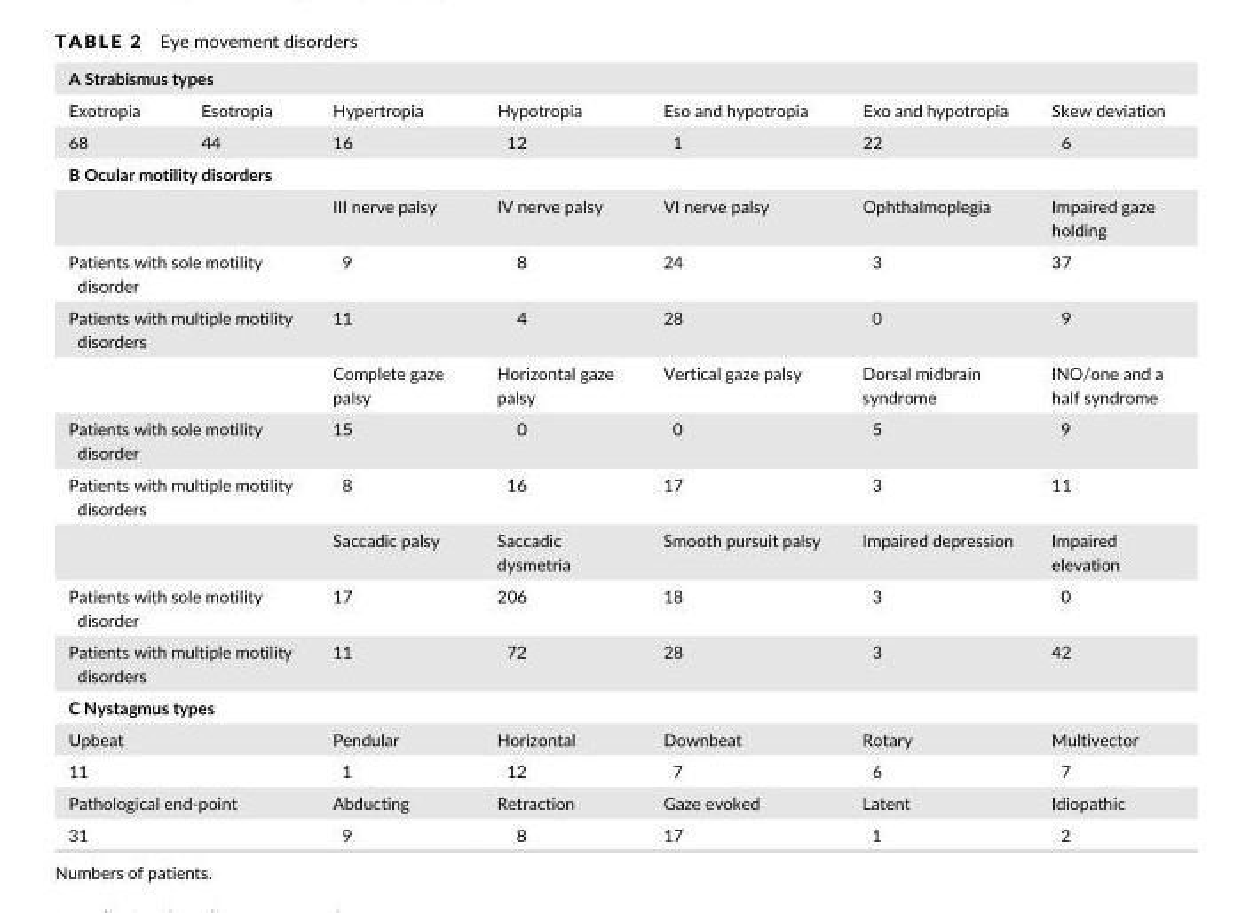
<table><tbody><tr><td colspan="7">A Strabismus types</td></tr><tr><td>Exotropia</td><td>Esotropia</td><td>Hypertropia</td><td>Hypotropia</td><td>Eso and hypotropia</td><td>Exo and hypotropia</td><td>Skew deviation</td></tr><tr><td>68</td><td>44</td><td>16</td><td>12</td><td>1</td><td>22</td><td>6</td></tr><tr><td colspan="7">B Ocular motility disorders</td></tr><tr><td colspan="2"></td><td>III nerve palsy</td><td>IV nerve palsy</td><td>VI nerve palsy</td><td>Ophthalmoplegia</td><td>Impaired gaze holding</td></tr><tr><td colspan="2">Patients with sole motility disorder</td><td>9</td><td>8</td><td>24</td><td>3</td><td>37</td></tr><tr><td rowspan="2" colspan="2">Patients with multiple motility disorders</td><td>11</td><td>4</td><td>28</td><td>0</td><td>9</td></tr><tr><td>Complete gaze palsy</td><td>Horizontal gaze palsy</td><td>Vertical gaze palsy</td><td>Dorsal midbrain syndrome</td><td>INO/one and a half syndrome</td></tr><tr><td colspan="2">Patients with sole motility disorder</td><td>15</td><td>0</td><td>0</td><td>5</td><td>9</td></tr><tr><td rowspan="2" colspan="2">Patients with multiple motility disorders</td><td>8</td><td>16</td><td>17</td><td>3</td><td>11</td></tr><tr><td>Saccadic palsy</td><td>Saccadic dysmetria</td><td>Smooth pursuit palsy</td><td>Impaired depression</td><td>Impaired elevation</td></tr><tr><td colspan="2">Patients with sole motility disorder</td><td>17</td><td>206</td><td>18</td><td>3</td><td>0</td></tr><tr><td colspan="2">Patients with multiple motility disorders</td><td>11</td><td>72</td><td>28</td><td>3</td><td>42</td></tr><tr><td colspan="7">C Nystagmus types</td></tr><tr><td colspan="2">Upbeat</td><td>Pendular</td><td>Horizontal</td><td>Downbeat</td><td>Rotary</td><td>Multivector</td></tr><tr><td colspan="2">11</td><td>1</td><td>12</td><td>7</td><td>6</td><td>7</td></tr><tr><td colspan="2">Pathological end- point</td><td>Abducting</td><td>Retraction</td><td>Gaze evoked</td><td>Latent</td><td>Idiopathic</td></tr><tr><td colspan="2">31</td><td>9</td><td>8</td><td>17</td><td>1</td><td>2</td></tr></tbody></table>